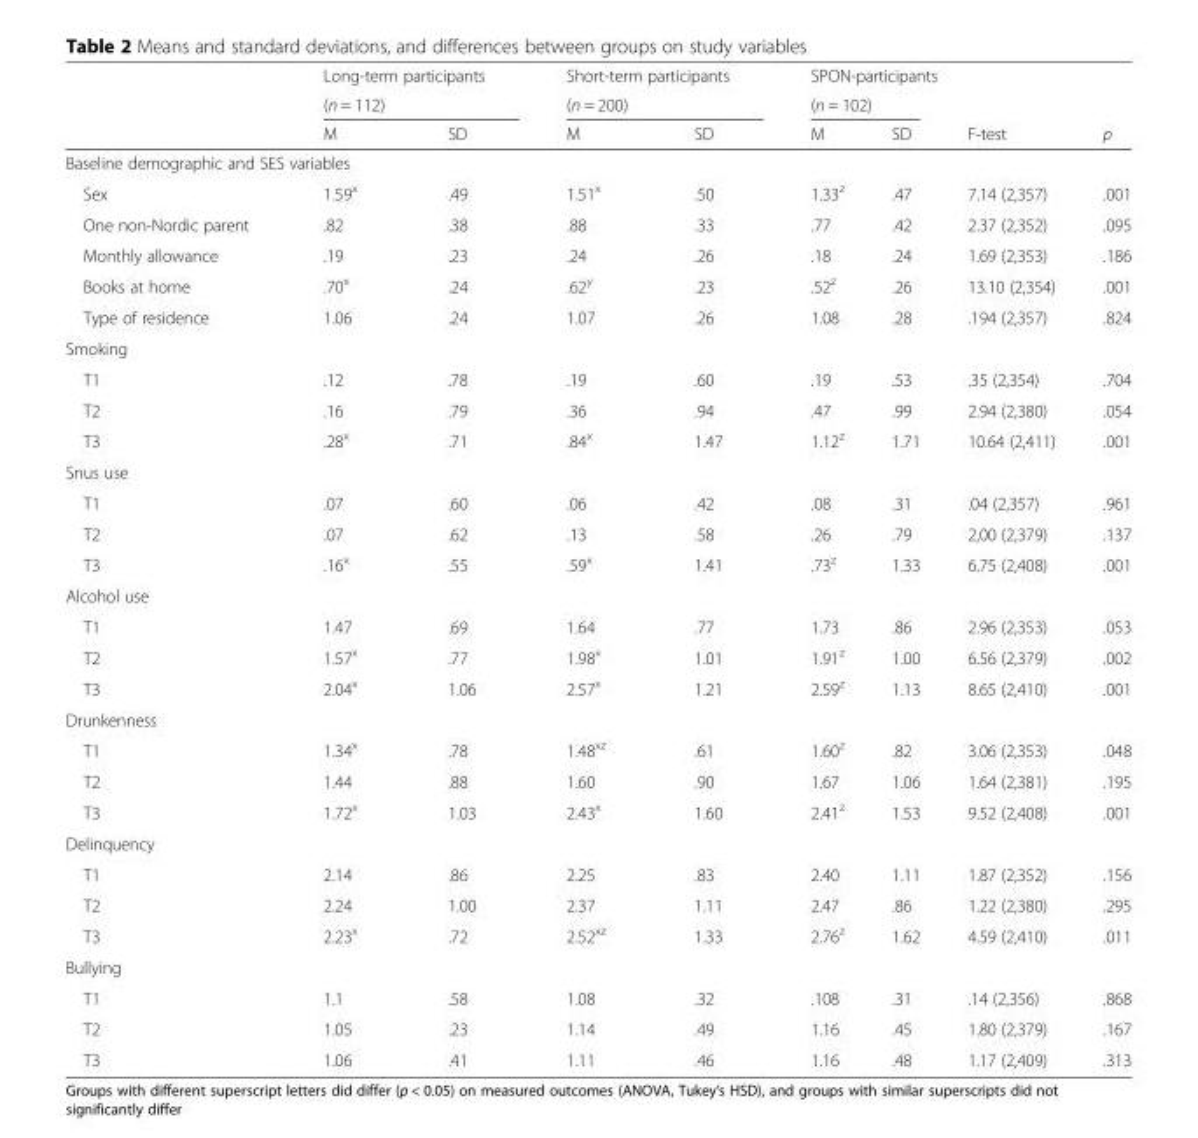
<table><thead><tr><td rowspan="3"></td><td rowspan="2" colspan="2">Long-term participants (n = 112)</td><td rowspan="2" colspan="2">Short-term participants (n = 200)</td><td colspan="3">SPON-participants</td><td rowspan="3">p</td></tr><tr><td colspan="2">(n = 102)</td><td rowspan="2">F-test</td></tr><tr><td>M</td><td>SD</td><td>M</td><td>SD</td><td>M</td><td>SD</td></tr></thead><tbody><tr><td colspan="9">Baseline demographic and SES variables</td></tr><tr><td>Sex</td><td>1.59<sup>x</sup></td><td>.49</td><td>1.51<sup>x</sup></td><td>.50</td><td>1.33<sup>z</sup></td><td>.47</td><td>7.14 (2,357)</td><td>.001</td></tr><tr><td>One non-Nordic parent</td><td>.82</td><td>.38</td><td>.88</td><td>.33</td><td>.77</td><td>.42</td><td>2.37 (2,352)</td><td>.095</td></tr><tr><td>Monthly allowance</td><td>.19</td><td>.23</td><td>.24</td><td>.26</td><td>.18</td><td>.24</td><td>1.69 (2,353)</td><td>.186</td></tr><tr><td>Books at home</td><td>.70<sup>x</sup></td><td>.24</td><td>.62<sup>y</sup></td><td>.23</td><td>.52<sup>z</sup></td><td>.26</td><td>13.10 (2,354)</td><td>.001</td></tr><tr><td>Type of residence</td><td>1.06</td><td>.24</td><td>1.07</td><td>.26</td><td>1.08</td><td>.28</td><td>.194 (2,357)</td><td>.824</td></tr><tr><td colspan="9">Smoking</td></tr><tr><td>T1</td><td>.12</td><td>.78</td><td>.19</td><td>.60</td><td>.19</td><td>.53</td><td>.35 (2,354)</td><td>.704</td></tr><tr><td>T2</td><td>.16</td><td>.79</td><td>.36</td><td>.94</td><td>.47</td><td>.99</td><td>2.94 (2,380)</td><td>.054</td></tr><tr><td>T3</td><td>.28<sup>x</sup></td><td>.71</td><td>.84<sup>x</sup></td><td>1.47</td><td>1.12<sup>z</sup></td><td>1.71</td><td>10.64 (2,411)</td><td>.001</td></tr><tr><td colspan="9">Snus use</td></tr><tr><td>T1</td><td>.07</td><td>.60</td><td>.06</td><td>.42</td><td>.08</td><td>.31</td><td>.04 (2,357)</td><td>.961</td></tr><tr><td>T2</td><td>.07</td><td>.62</td><td>.13</td><td>.58</td><td>.26</td><td>.79</td><td>2,00 (2,379)</td><td>.137</td></tr><tr><td>T3</td><td>.16<sup>x</sup></td><td>.55</td><td>.59<sup>x</sup></td><td>1.41</td><td>.73<sup>z</sup></td><td>1.33</td><td>6.75 (2,408)</td><td>.001</td></tr><tr><td colspan="9">Alcohol use</td></tr><tr><td>T1</td><td>1.47</td><td>.69</td><td>1.64</td><td>.77</td><td>1.73</td><td>.86</td><td>2.96 (2,353)</td><td>.053</td></tr><tr><td>T2</td><td>1.57<sup>x</sup></td><td>.77</td><td>1.98<sup>x</sup></td><td>1.01</td><td>1.91<sup>z</sup></td><td>1.00</td><td>6.56 (2,379)</td><td>.002</td></tr><tr><td>T3</td><td>2.04<sup>x</sup></td><td>1.06</td><td>2.57<sup>x</sup></td><td>1.21</td><td>2.59<sup>z</sup></td><td>1.13</td><td>8.65 (2,410)</td><td>.001</td></tr><tr><td colspan="9">Drunkenness</td></tr><tr><td>T1</td><td>1.34<sup>x</sup></td><td>.78</td><td>1.48<sup>xz</sup></td><td>.61</td><td>1.60<sup>z</sup></td><td>.82</td><td>3.06 (2,353)</td><td>.048</td></tr><tr><td>T2</td><td>1.44</td><td>.88</td><td>1.60</td><td>.90</td><td>1.67</td><td>1.06</td><td>1.64 (2,381)</td><td>.195</td></tr><tr><td>T3</td><td>1.72<sup>x</sup></td><td>1.03</td><td>2.43<sup>x</sup></td><td>1.60</td><td>2.41<sup>z</sup></td><td>1.53</td><td>9.52 (2,408)</td><td>.001</td></tr><tr><td colspan="9">Delinquency</td></tr><tr><td>T1</td><td>2.14</td><td>.86</td><td>2.25</td><td>.83</td><td>2.40</td><td>1.11</td><td>1.87 (2,352)</td><td>.156</td></tr><tr><td>T2</td><td>2.24</td><td>1.00</td><td>2.37</td><td>1.11</td><td>2.47</td><td>.86</td><td>1.22 (2,380)</td><td>.295</td></tr><tr><td>T3</td><td>2.23<sup>x</sup></td><td>.72</td><td>2.52<sup>xz</sup></td><td>1.33</td><td>2.76<sup>z</sup></td><td>1.62</td><td>4.59 (2,410)</td><td>.011</td></tr><tr><td colspan="9">Bullying</td></tr><tr><td>T1</td><td>1.1</td><td>.58</td><td>1.08</td><td>.32</td><td>.108</td><td>.31</td><td>.14 (2,356)</td><td>.868</td></tr><tr><td>T2</td><td>1.05</td><td>.23</td><td>1.14</td><td>.49</td><td>1.16</td><td>.45</td><td>1.80 (2,379)</td><td>.167</td></tr><tr><td>T3</td><td>1.06</td><td>.41</td><td>1.11</td><td>.46</td><td>1.16</td><td>.48</td><td>1.17 (2,409)</td><td>.313</td></tr></tbody></table>